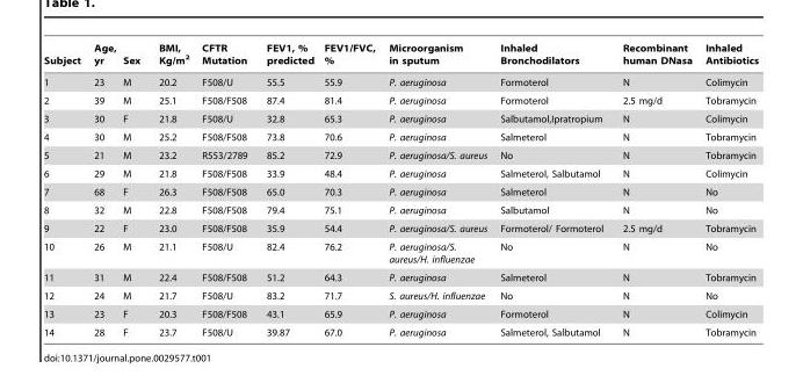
<table><thead><tr><td>Subject</td><td>Age, yr</td><td>Sex</td><td>BMI, Kg/m<sup>2</sup></td><td>CFTR Mutation</td><td>FEV1, % predicted</td><td>FEV1/FVC, %</td><td>Microorganism in sputum</td><td>Inhaled Bronchodilators</td><td>Recombinant human DNasa</td><td>Inhaled Antibiotics</td></tr></thead><tbody><tr><td>1</td><td>23</td><td>M</td><td>20.2</td><td>F508/U</td><td>55.5</td><td>55.9</td><td>P. aeruginosa</td><td>Formoterol</td><td>N</td><td>Colimycin</td></tr><tr><td>2</td><td>39</td><td>M</td><td>25.1</td><td>F508/F508</td><td>87.4</td><td>81.4</td><td>P. aeruginosa</td><td>Formoterol</td><td>2.5 mg/d</td><td>Tobramycin</td></tr><tr><td>3</td><td>30</td><td>F</td><td>21.8</td><td>F508/U</td><td>32.8</td><td>65.3</td><td>P. aeruginosa</td><td>Salbutamol,Ipratropium</td><td>N</td><td>Colimycin</td></tr><tr><td>4</td><td>30</td><td>M</td><td>25.2</td><td>F508/F508</td><td>73.8</td><td>70.6</td><td>P. aeruginosa</td><td>Salmeterol</td><td>N</td><td>Tobramycin</td></tr><tr><td>5</td><td>21</td><td>M</td><td>23.2</td><td>R553/2789</td><td>85.2</td><td>72.9</td><td>P. aeruginosa/S. aureus</td><td>No</td><td>N</td><td>Tobramycin</td></tr><tr><td>6</td><td>29</td><td>M</td><td>21.8</td><td>F508/F508</td><td>33.9</td><td>48.4</td><td>P. aeruginosa</td><td>Salmeterol, Salbutamol</td><td>N</td><td>Colimycin</td></tr><tr><td>7</td><td>68</td><td>F</td><td>26.3</td><td>F508/F508</td><td>65.0</td><td>70.3</td><td>P. aeruginosa</td><td>Salmeterol</td><td>N</td><td>No</td></tr><tr><td>8</td><td>32</td><td>M</td><td>22.8</td><td>F508/F508</td><td>79.4</td><td>75.1</td><td>P. aeruginosa</td><td>Salbutamol</td><td>N</td><td>No</td></tr><tr><td>9</td><td>22</td><td>F</td><td>23.0</td><td>F508/F508</td><td>35.9</td><td>54.4</td><td>P. aeruginosa/S. aureus</td><td>Formoterol/ Formoterol</td><td>2.5 mg/d</td><td>Tobramycin</td></tr><tr><td>10</td><td>26</td><td>M</td><td>21.1</td><td>F508/U</td><td>82.4</td><td>76.2</td><td>P. aeruginosa/S. aureus/H. influenzae</td><td>No</td><td>N</td><td>No</td></tr><tr><td>11</td><td>31</td><td>M</td><td>22.4</td><td>F508/F508</td><td>51.2</td><td>64.3</td><td>P. aeruginosa</td><td>Salmeterol</td><td>N</td><td>Tobramycin</td></tr><tr><td>12</td><td>24</td><td>M</td><td>21.7</td><td>F508/U</td><td>83.2</td><td>71.7</td><td>S. aureus/H. influenzae</td><td>No</td><td>N</td><td>No</td></tr><tr><td>13</td><td>23</td><td>F</td><td>20.3</td><td>F508/F508</td><td>43.1</td><td>65.9</td><td>P. aeruginosa</td><td>Formoterol</td><td>N</td><td>Colimycin</td></tr><tr><td>14</td><td>28</td><td>F</td><td>23.7</td><td>F508/U</td><td>39.87</td><td>67.0</td><td>P. aeruginosa</td><td>Salmeterol, Salbutamol</td><td>N</td><td>Tobramycin</td></tr></tbody></table>